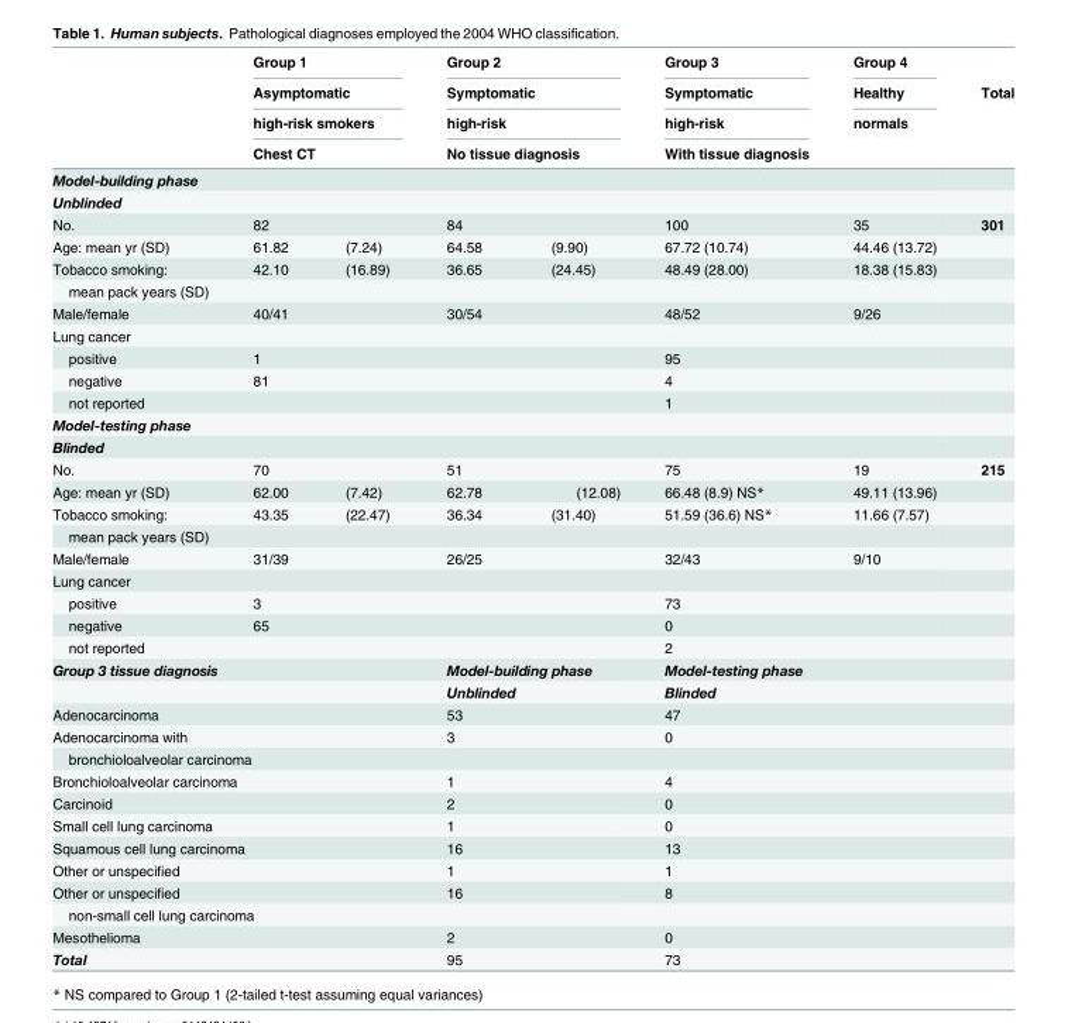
<table><thead><tr><td rowspan="5">Model-building phase</td><td rowspan="4" colspan="2">Group 1 Asymptomatic high-risk smokers Chest CT</td><td rowspan="4" colspan="2">Group 2 Symptomatic high-risk No tissue diagnosis</td><td rowspan="5">Group 3 Symptomatic high-risk With tissue diagnosis</td><td rowspan="5">Group 4 Healthy normals</td><td rowspan="5">Total</td></tr><tr></tr><tr></tr><tr></tr><tr><td></td><td></td><td></td><td></td></tr></thead><tbody><tr><td colspan="8">Unblinded</td></tr><tr><td>No.</td><td>82</td><td></td><td>84</td><td></td><td>100</td><td>35</td><td>301</td></tr><tr><td>Age: mean yr (SD)</td><td>61.82</td><td>(7.24)</td><td>64.58</td><td>(9.90)</td><td>67.72 (10.74)</td><td>44.46 (13.72)</td><td></td></tr><tr><td>Tobacco smoking:</td><td>42.10</td><td>(16.89)</td><td>36.65</td><td>(24.45)</td><td>48.49 (28.00)</td><td>18.38 (15.83)</td><td></td></tr><tr><td colspan="8">mean pack years (SD)</td></tr><tr><td>Male/female</td><td>40/41</td><td></td><td>30/54</td><td></td><td>48/52</td><td>9/26</td><td></td></tr><tr><td colspan="8">Lung cancer</td></tr><tr><td>positive</td><td>1</td><td></td><td></td><td></td><td>95</td><td></td><td></td></tr><tr><td>negative</td><td>81</td><td></td><td></td><td></td><td>4</td><td></td><td></td></tr><tr><td>not reported</td><td></td><td></td><td></td><td></td><td>1</td><td></td><td></td></tr><tr><td colspan="8">Model-testing phase</td></tr><tr><td colspan="8">Blinded</td></tr><tr><td>No.</td><td>70</td><td></td><td>51</td><td></td><td>75</td><td>19</td><td>215</td></tr><tr><td>Age: mean yr (SD)</td><td>62.00</td><td>(7.42)</td><td>62.78</td><td>(12.08)</td><td>66.48 (8.9) NS*</td><td>49.11 (13.96)</td><td></td></tr><tr><td>Tobacco smoking:</td><td>43.35</td><td>(22.47)</td><td>36.34</td><td>(31.40)</td><td>51.59 (36.6) NS*</td><td>11.66 (7.57)</td><td></td></tr><tr><td colspan="8">mean pack years (SD)</td></tr><tr><td>Male/female</td><td>31/39</td><td></td><td>26/25</td><td></td><td>32/43</td><td>9/10</td><td></td></tr><tr><td colspan="8">Lung cancer</td></tr><tr><td>positive</td><td>3</td><td></td><td></td><td></td><td>73</td><td></td><td></td></tr><tr><td>negative</td><td>65</td><td></td><td></td><td></td><td>0</td><td></td><td></td></tr><tr><td>not reported</td><td></td><td></td><td></td><td></td><td>2</td><td></td><td></td></tr><tr><td rowspan="2" colspan="3">Group 3 tissue diagnosis</td><td colspan="2">Model-building phase</td><td colspan="3">Model-testing phase</td></tr><tr><td colspan="2">Unblinded</td><td colspan="3">Blinded</td></tr><tr><td colspan="3">Adenocarcinoma</td><td colspan="2">53</td><td colspan="3">47</td></tr><tr><td colspan="3">Adenocarcinoma with</td><td colspan="2">3</td><td colspan="3">0</td></tr><tr><td colspan="8">bronchioloalveolar carcinoma</td></tr><tr><td colspan="3">Bronchioloalveolar carcinoma</td><td colspan="2">1</td><td colspan="3">4</td></tr><tr><td colspan="3">Carcinoid</td><td colspan="2">2</td><td colspan="3">0</td></tr><tr><td colspan="3">Small cell lung carcinoma</td><td colspan="2">1</td><td colspan="3">0</td></tr><tr><td colspan="3">Squamous cell lung carcinoma</td><td colspan="2">16</td><td colspan="3">13</td></tr><tr><td colspan="3">Other or unspecified</td><td colspan="2">1</td><td colspan="3">1</td></tr><tr><td colspan="3">Other or unspecified</td><td colspan="2">16</td><td colspan="3">8</td></tr><tr><td colspan="8">non-small cell lung carcinoma</td></tr><tr><td colspan="3">Mesothelioma</td><td colspan="2">2</td><td colspan="3">0</td></tr><tr><td colspan="3">Total</td><td colspan="2">95</td><td colspan="3">73</td></tr></tbody></table>